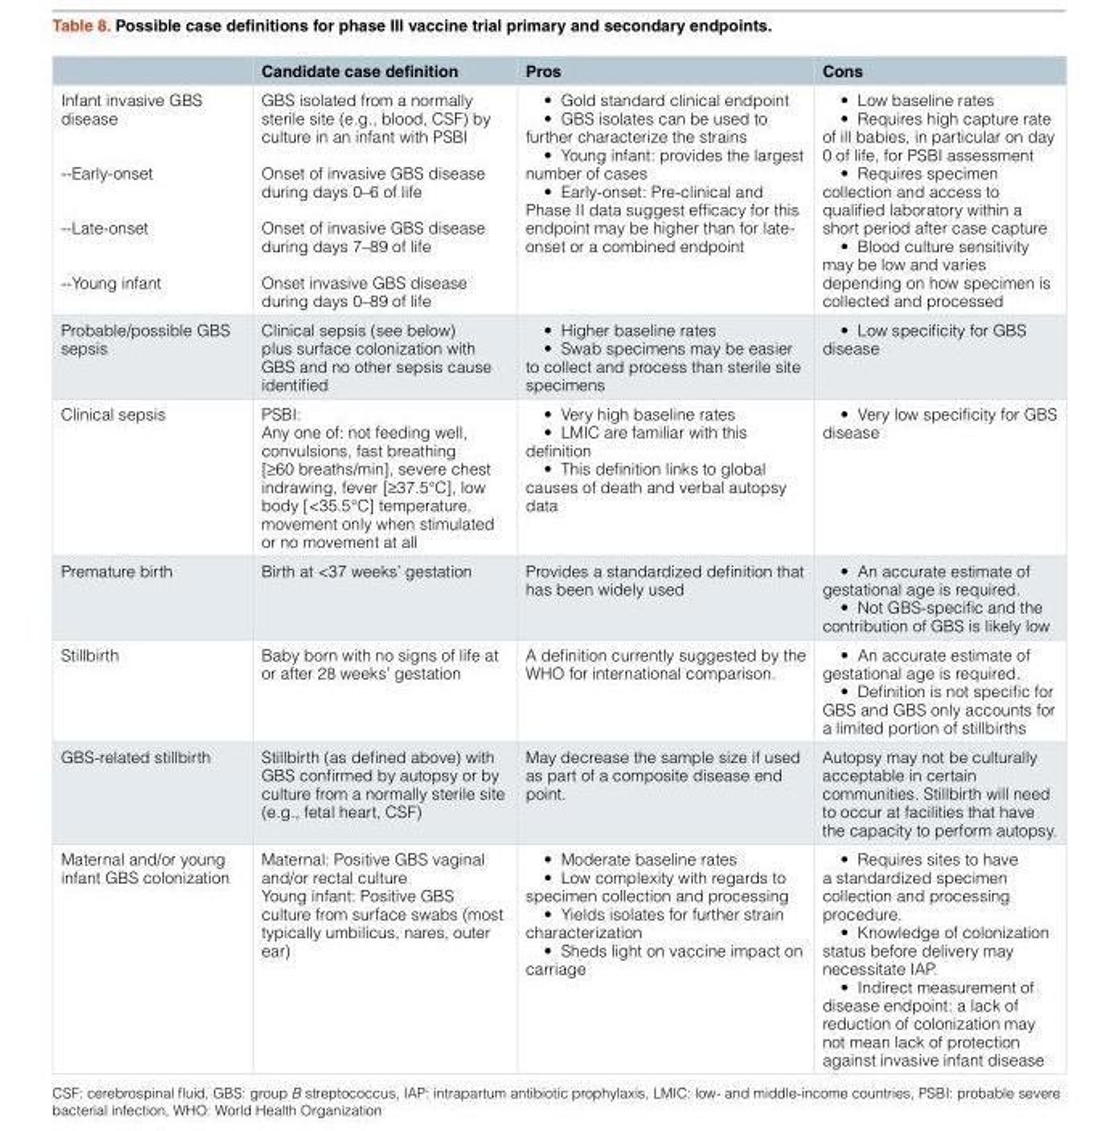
<table><thead><tr><td></td><td>Candidate case definition</td><td>Pros</td><td>Cons</td></tr></thead><tbody><tr><td>Infant invasive GBS disease --Early-onset --Late-onset --Young infant</td><td>GBS isolated from a normally sterile site (e.g., blood, CSF) by culture in an infant with PSBI Onset of invasive GBS disease during days 0–6 of life Onset of invasive GBS disease during days 7–89 of life Onset invasive GBS disease during days 0–89 of life</td><td>• Gold standard clinical endpoint • GBS isolates can be used to further characterize the strains • Young infant: provides the largest number of cases • Early-onset: Pre-clinical and Phase II data suggest efficacy for this endpoint may be higher than for late- onset or a combined endpoint</td><td>• Low baseline rates • Requires high capture rate of ill babies, in particular on day 0 of life, for PSBI assessment • Requires specimen collection and access to qualified laboratory within a short period after case capture • Blood culture sensitivity may be low and varies depending on how specimen is collected and processed</td></tr><tr><td>Probable/possible GBS sepsis</td><td>Clinical sepsis (see below) plus surface colonization with GBS and no other sepsis cause identified</td><td>• Higher baseline rates • Swab specimens may be easier to collect and process than sterile site specimens</td><td>• Low specificity for GBS disease</td></tr><tr><td>Clinical sepsis</td><td>PSBI: Any one of: not feeding well, convulsions, fast breathing [≥60 breaths/min], severe chest indrawing, fever [≥37.5°C], low body [&lt;35.5°C] temperature, movement only when stimulated or no movement at all</td><td>• Very high baseline rates • LMIC are familiar with this definition • This definition links to global causes of death and verbal autopsy data</td><td>• Very low specificity for GBS disease</td></tr><tr><td>Premature birth</td><td>Birth at &lt;37 weeks’ gestation</td><td>Provides a standardized definition that has been widely used</td><td>• An accurate estimate of gestational age is required. • Not GBS-specific and the contribution of GBS is likely low</td></tr><tr><td>Stillbirth</td><td>Baby born with no signs of life at or after 28 weeks’ gestation</td><td>A definition currently suggested by the WHO for international comparison.</td><td>• An accurate estimate of gestational age is required. • Definition is not specific for GBS and GBS only accounts for a limited portion of stillbirths</td></tr><tr><td>GBS-related stillbirth</td><td>Stillbirth (as defined above) with GBS confirmed by autopsy or by culture from a normally sterile site (e.g., fetal heart, CSF)</td><td>May decrease the sample size if used as part of a composite disease end point.</td><td>Autopsy may not be culturally acceptable in certain communities. Stillbirth will need to occur at facilities that have the capacity to perform autopsy.</td></tr><tr><td>Maternal and/or young infant GBS colonization</td><td>Maternal: Positive GBS vaginal and/or rectal culture Young infant: Positive GBS culture from surface swabs (most typically umbilicus, nares, outer ear)</td><td>• Moderate baseline rates • Low complexity with regards to specimen collection and processing • Yields isolates for further strain characterization • Sheds light on vaccine impact on carriage</td><td>• Requires sites to have a standardized specimen collection and processing procedure. • Knowledge of colonization status before delivery may necessitate IAP. • Indirect measurement of disease endpoint: a lack of reduction of colonization may not mean lack of protection against invasive infant disease</td></tr></tbody></table>